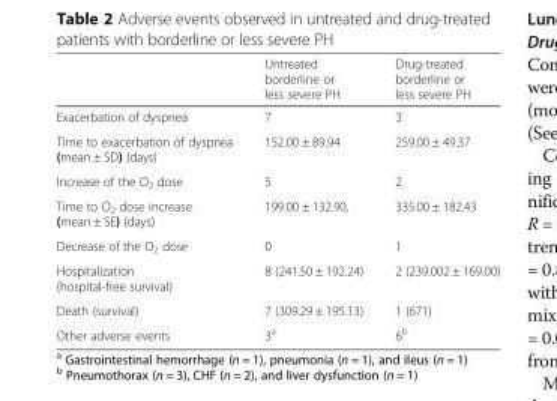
<table><thead><tr><td></td><td>Untreated borderline or less severe PH</td><td>Drug-treated borderline or less severe PH</td></tr></thead><tbody><tr><td>Exacerbation of dyspnea</td><td>7</td><td>3</td></tr><tr><td>Time to exacerbation of dyspnea (mean ± SD) (days)</td><td>152.00 ± 89.94</td><td>259.00 ± 49.37</td></tr><tr><td>Increase of the O<sub>2</sub> dose</td><td>5</td><td>2</td></tr><tr><td>Time to O<sub>2</sub> dose increase (mean ± SE) (days)</td><td>199.00 ± 132.90,</td><td>335.00 ± 182.43</td></tr><tr><td>Decrease of the O<sub>2</sub> dose</td><td>0</td><td>1</td></tr><tr><td>Hospitalization (hospital-free survival)</td><td>8 (241.50 ± 192.24)</td><td>2 (239.002 ± 169.00)</td></tr><tr><td>Death (survival)</td><td>7 (309.29 ± 195.13)</td><td>1 (671)</td></tr><tr><td>Other adverse events</td><td>3<sup>a</sup></td><td>6<sup>b</sup></td></tr></tbody></table>